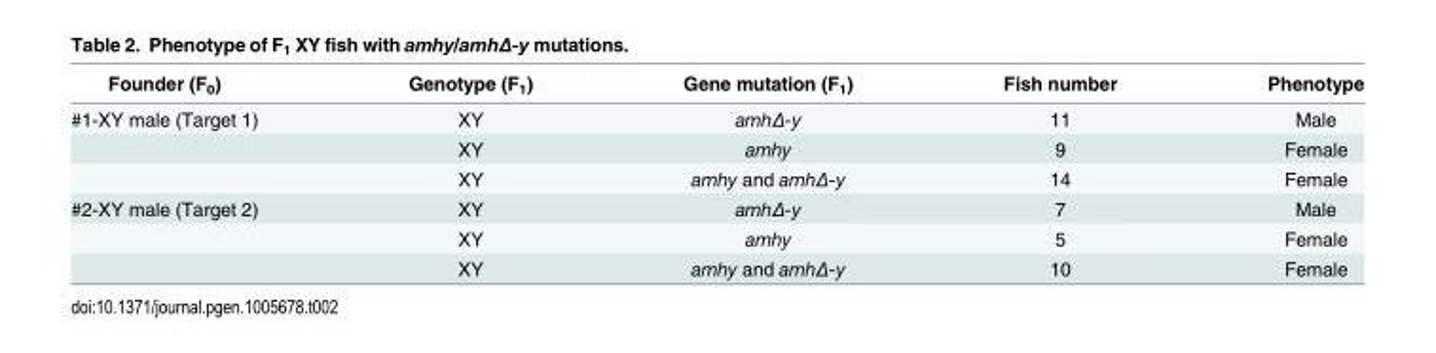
<table><thead><tr><td>Founder (F<sub>0</sub>)</td><td>Genotype (F<sub>1</sub>)</td><td>Gene mutation (F<sub>1</sub>)</td><td>Fish number</td><td>Phenotype</td></tr></thead><tbody><tr><td rowspan="3">#1-XY male (Target 1)</td><td>XY</td><td>amhΔ-y</td><td>11</td><td>Male</td></tr><tr><td>XY</td><td>amhy</td><td>9</td><td>Female</td></tr><tr><td>XY</td><td>amhy and amhΔ-y</td><td>14</td><td>Female</td></tr><tr><td rowspan="3">#2-XY male (Target 2)</td><td>XY</td><td>amhΔ-y</td><td>7</td><td>Male</td></tr><tr><td>XY</td><td>amhy</td><td>5</td><td>Female</td></tr><tr><td>XY</td><td>amhy and amhΔ-y</td><td>10</td><td>Female</td></tr></tbody></table>